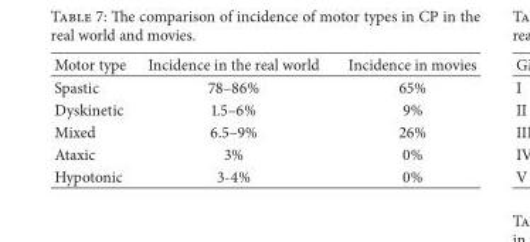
<table><thead><tr><td>Motor type</td><td>Incidence in the real world</td><td>Incidence in movies</td></tr></thead><tbody><tr><td>Spastic</td><td>78–86%</td><td>65%</td></tr><tr><td>Dyskinetic</td><td>1.5–6%</td><td>9%</td></tr><tr><td>Mixed</td><td>6.5–9%</td><td>26%</td></tr><tr><td>Ataxic</td><td>3%</td><td>0%</td></tr><tr><td>Hypotonic</td><td>3-4%</td><td>0%</td></tr></tbody></table>